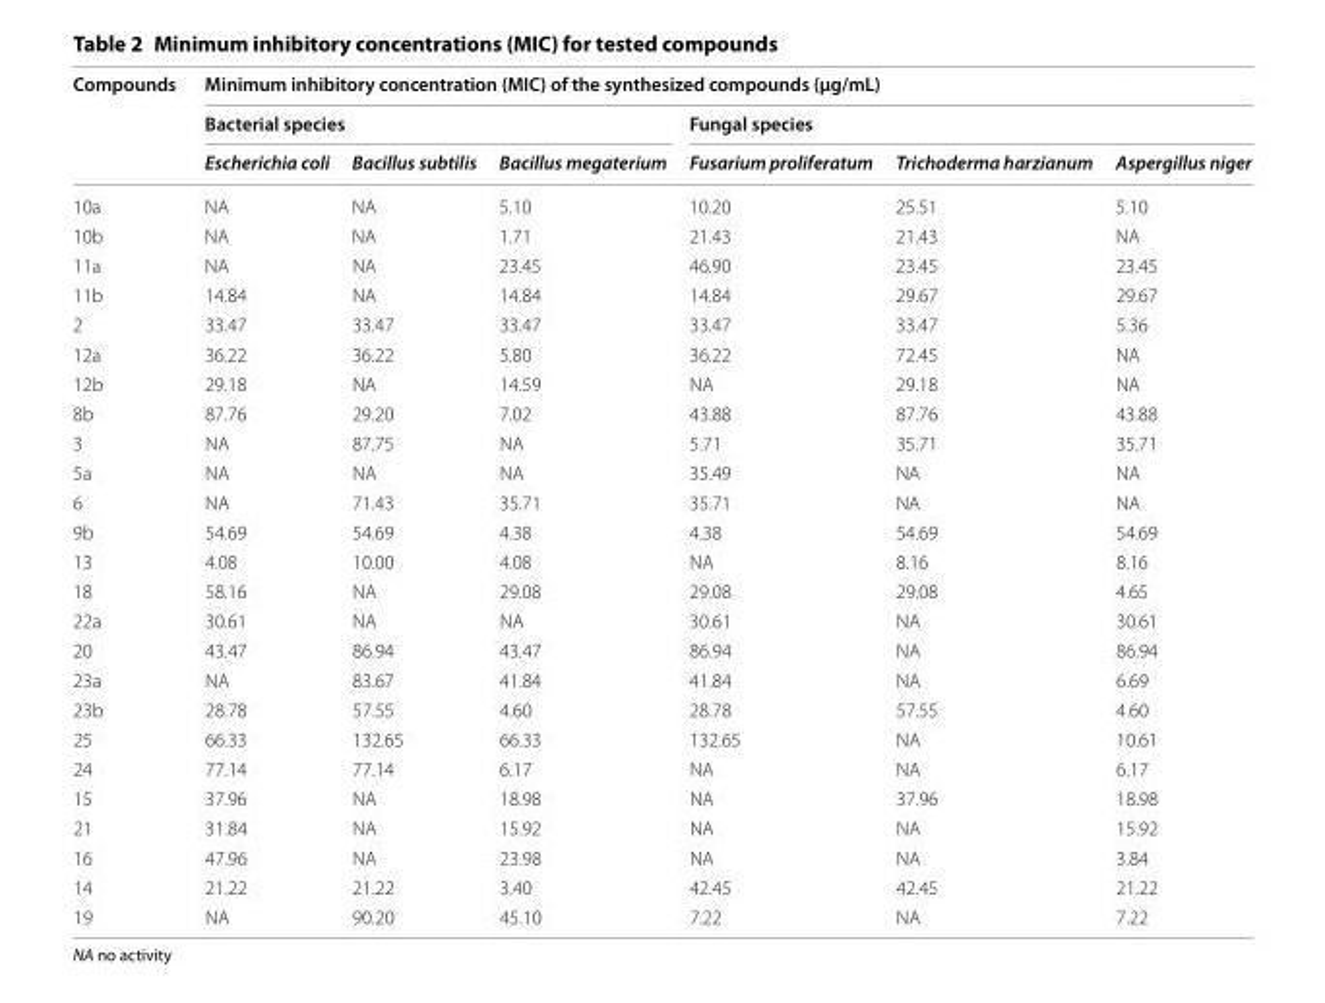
<table><thead><tr><td rowspan="3">Compounds</td><td colspan="6">Minimum inhibitory concentration (MIC) of the synthesized compounds (µg/mL)</td></tr><tr><td colspan="3">Bacterial species</td><td colspan="3">Fungal species</td></tr><tr><td>Escherichia coli</td><td>Bacillus subtilis</td><td>Bacillus megaterium</td><td>Fusarium proliferatum</td><td>Trichoderma harzianum</td><td>Aspergillus niger</td></tr></thead><tbody><tr><td>10a</td><td>NA</td><td>NA</td><td>5.10</td><td>10.20</td><td>25.51</td><td>5.10</td></tr><tr><td>10b</td><td>NA</td><td>NA</td><td>1.71</td><td>21.43</td><td>21.43</td><td>NA</td></tr><tr><td>11a</td><td>NA</td><td>NA</td><td>23.45</td><td>46.90</td><td>23.45</td><td>23.45</td></tr><tr><td>11b</td><td>14.84</td><td>NA</td><td>14.84</td><td>14.84</td><td>29.67</td><td>29.67</td></tr><tr><td>2</td><td>33.47</td><td>33.47</td><td>33.47</td><td>33.47</td><td>33.47</td><td>5.36</td></tr><tr><td>12a</td><td>36.22</td><td>36.22</td><td>5.80</td><td>36.22</td><td>72.45</td><td>NA</td></tr><tr><td>12b</td><td>29.18</td><td>NA</td><td>14.59</td><td>NA</td><td>29.18</td><td>NA</td></tr><tr><td>8b</td><td>87.76</td><td>29.20</td><td>7.02</td><td>43.88</td><td>87.76</td><td>43.88</td></tr><tr><td>3</td><td>NA</td><td>87.75</td><td>NA</td><td>5.71</td><td>35.71</td><td>35.71</td></tr><tr><td>5a</td><td>NA</td><td>NA</td><td>NA</td><td>35.49</td><td>NA</td><td>NA</td></tr><tr><td>6</td><td>NA</td><td>71.43</td><td>35.71</td><td>35.71</td><td>NA</td><td>NA</td></tr><tr><td>9b</td><td>54.69</td><td>54.69</td><td>4.38</td><td>4.38</td><td>54.69</td><td>54.69</td></tr><tr><td>13</td><td>4.08</td><td>10.00</td><td>4.08</td><td>NA</td><td>8.16</td><td>8.16</td></tr><tr><td>18</td><td>58.16</td><td>NA</td><td>29.08</td><td>29.08</td><td>29.08</td><td>4.65</td></tr><tr><td>22a</td><td>30.61</td><td>NA</td><td>NA</td><td>30.61</td><td>NA</td><td>30.61</td></tr><tr><td>20</td><td>43.47</td><td>86.94</td><td>43.47</td><td>86.94</td><td>NA</td><td>86.94</td></tr><tr><td>23a</td><td>NA</td><td>83.67</td><td>41.84</td><td>41.84</td><td>NA</td><td>6.69</td></tr><tr><td>23b</td><td>28.78</td><td>57.55</td><td>4.60</td><td>28.78</td><td>57.55</td><td>4.60</td></tr><tr><td>25</td><td>66.33</td><td>132.65</td><td>66.33</td><td>132.65</td><td>NA</td><td>10.61</td></tr><tr><td>24</td><td>77.14</td><td>77.14</td><td>6.17</td><td>NA</td><td>NA</td><td>6.17</td></tr><tr><td>15</td><td>37.96</td><td>NA</td><td>18.98</td><td>NA</td><td>37.96</td><td>18.98</td></tr><tr><td>21</td><td>31.84</td><td>NA</td><td>15.92</td><td>NA</td><td>NA</td><td>15.92</td></tr><tr><td>16</td><td>47.96</td><td>NA</td><td>23.98</td><td>NA</td><td>NA</td><td>3.84</td></tr><tr><td>14</td><td>21.22</td><td>21.22</td><td>3.40</td><td>42.45</td><td>42.45</td><td>21.22</td></tr><tr><td>19</td><td>NA</td><td>90.20</td><td>45.10</td><td>7.22</td><td>NA</td><td>7.22</td></tr></tbody></table>